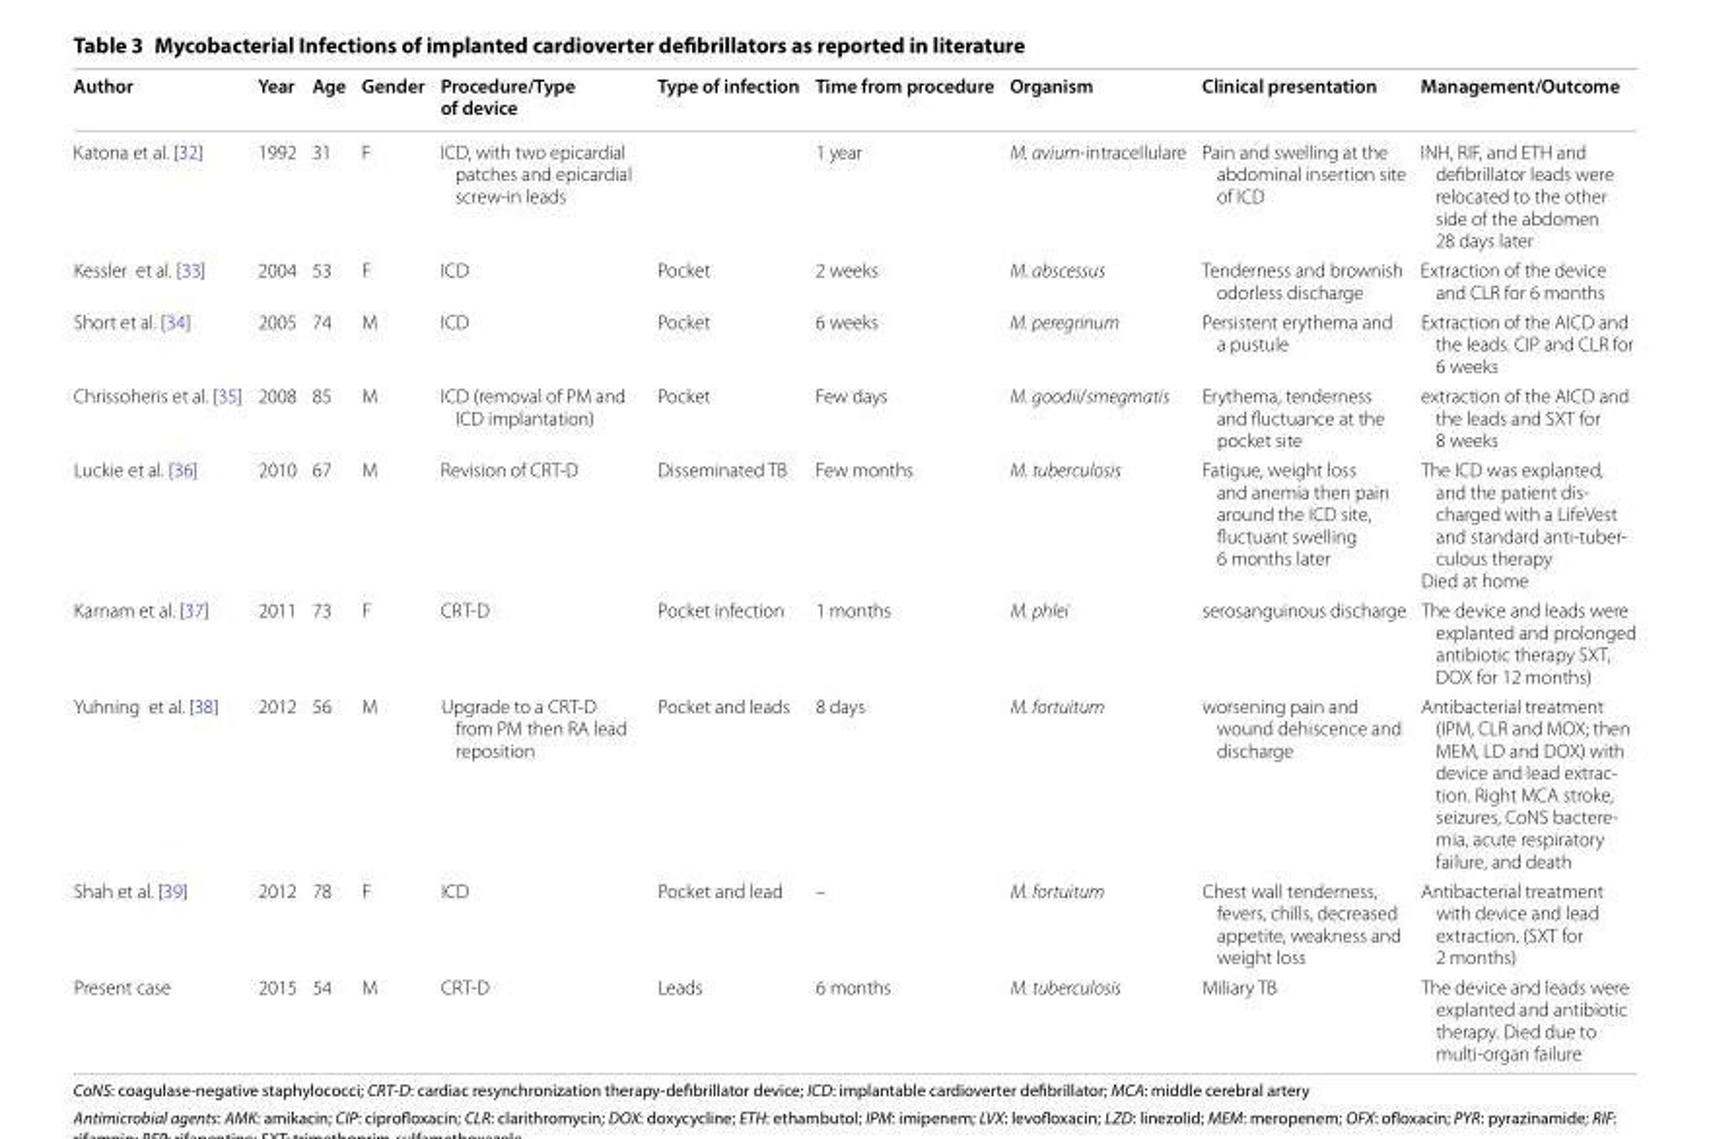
<table><thead><tr><td>Author</td><td>Year</td><td>Age</td><td>Gender</td><td>Procedure/Type of device</td><td>Type of infection</td><td>Time from procedure</td><td>Organism</td><td>Clinical presentation</td><td>Management/Outcome</td></tr></thead><tbody><tr><td>Katona et al. [32]</td><td>1992</td><td>31</td><td>F</td><td>ICD, with two epicardial patches and epicardial screw‑in leads</td><td></td><td>1 year</td><td>M. avium‑intracellulare</td><td>Pain and swelling at the abdominal insertion site of ICD</td><td>INH, RIF, and ETH and defibrillator leads were relocated to the other side of the abdomen 28 days later</td></tr><tr><td>Kessler et al. [33]</td><td>2004</td><td>53</td><td>F</td><td>ICD</td><td>Pocket</td><td>2 weeks</td><td>M. abscessus</td><td>Tenderness and brownish odorless discharge</td><td>Extraction of the device and CLR for 6 months</td></tr><tr><td>Short et al. [34]</td><td>2005</td><td>74</td><td>M</td><td>ICD</td><td>Pocket</td><td>6 weeks</td><td>M. peregrinum</td><td>Persistent erythema and a pustule</td><td>Extraction of the AICD and the leads. CIP and CLR for 6 weeks</td></tr><tr><td>Chrissoheris et al. [35]</td><td>2008</td><td>85</td><td>M</td><td>ICD (removal of PM and ICD implantation)</td><td>Pocket</td><td>Few days</td><td>M. goodii/smegmatis</td><td>Erythema, tenderness and fluctuance at the pocket site</td><td>extraction of the AICD and the leads and SXT for 8 weeks</td></tr><tr><td>Luckie et al. [36]</td><td>2010</td><td>67</td><td>M</td><td>Revision of CRT‑D</td><td>Disseminated TB</td><td>Few months</td><td>M. tuberculosis</td><td>Fatigue, weight loss and anemia then pain around the ICD site, fluctuant swelling 6 months later</td><td>The ICD was explanted, and the patient dis‑ charged with a LifeVest and standard anti‑tuber‑ culous therapy Died at home</td></tr><tr><td>Karnam et al. [37]</td><td>2011</td><td>73</td><td>F</td><td>CRT‑D</td><td>Pocket infection</td><td>1 months</td><td>M. phlei</td><td>serosanguinous discharge</td><td>The device and leads were explanted and prolonged antibiotic therapy SXT, DOX for 12 months)</td></tr><tr><td>Yuhning et al. [38]</td><td>2012</td><td>56</td><td>M</td><td>Upgrade to a CRT‑D from PM then RA lead reposition</td><td>Pocket and leads</td><td>8 days</td><td>M. fortuitum</td><td>worsening pain and wound dehiscence and discharge</td><td>Antibacterial treatment (IPM, CLR and MOX; then MEM, LD and DOX) with device and lead extrac‑ tion. Right MCA stroke, seizures, CoNS bactere‑ mia, acute respiratory failure, and death</td></tr><tr><td>Shah et al. [39]</td><td>2012</td><td>78</td><td>F</td><td>ICD</td><td>Pocket and lead</td><td>–</td><td>M. fortuitum</td><td>Chest wall tenderness, fevers, chills, decreased appetite, weakness and weight loss</td><td>Antibacterial treatment with device and lead extraction. (SXT for 2 months)</td></tr><tr><td>Present case</td><td>2015</td><td>54</td><td>M</td><td>CRT‑D</td><td>Leads</td><td>6 months</td><td>M. tuberculosis</td><td>Miliary TB</td><td>The device and leads were explanted and antibiotic therapy. Died due to multi‑organ failure</td></tr></tbody></table>